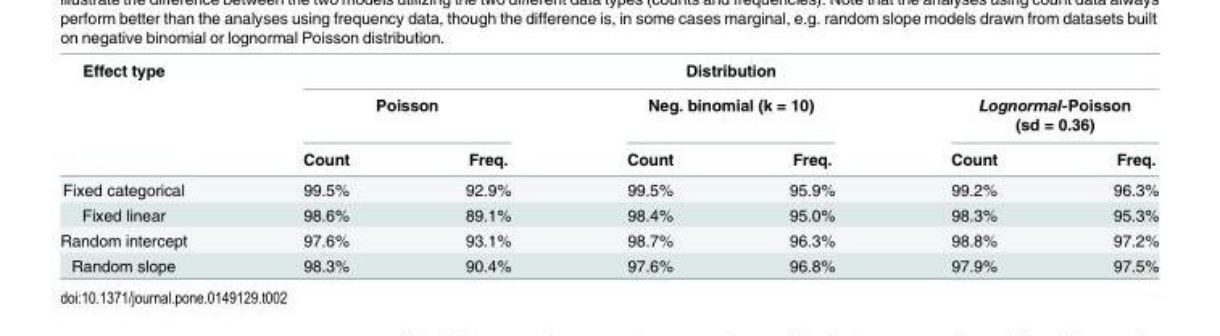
<table><thead><tr><td rowspan="3">Effect type</td><td colspan="6">Distribution</td></tr><tr><td colspan="2">Poisson</td><td colspan="2">Neg. binomial (k = 10)</td><td colspan="2">Lognormal-Poisson (sd = 0.36)</td></tr><tr><td>Count</td><td>Freq.</td><td>Count</td><td>Freq.</td><td>Count</td><td>Freq.</td></tr></thead><tbody><tr><td>Fixed categorical</td><td>99.5%</td><td>92.9%</td><td>99.5%</td><td>95.9%</td><td>99.2%</td><td>96.3%</td></tr><tr><td>Fixed linear</td><td>98.6%</td><td>89.1%</td><td>98.4%</td><td>95.0%</td><td>98.3%</td><td>95.3%</td></tr><tr><td>Random intercept</td><td>97.6%</td><td>93.1%</td><td>98.7%</td><td>96.3%</td><td>98.8%</td><td>97.2%</td></tr><tr><td>Random slope</td><td>98.3%</td><td>90.4%</td><td>97.6%</td><td>96.8%</td><td>97.9%</td><td>97.5%</td></tr></tbody></table>